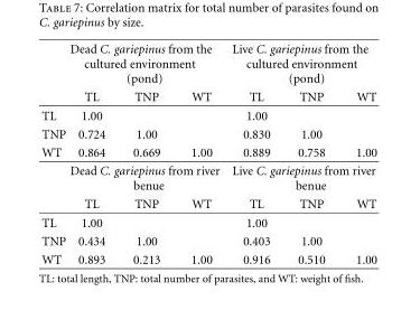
<table><thead><tr><td rowspan="2"></td><td colspan="3">Dead C. gariepinus from the cultured environment (pond)</td><td colspan="3">Live C. gariepinus from the cultured environment (pond)</td></tr><tr><td>TL</td><td>TNP</td><td>WT</td><td>TL</td><td>TNP</td><td>WT</td></tr></thead><tbody><tr><td>TL</td><td>1.00</td><td></td><td></td><td>1.00</td><td></td><td></td></tr><tr><td>TNP</td><td>0.724</td><td>1.00</td><td></td><td>0.830</td><td>1.00</td><td></td></tr><tr><td rowspan="3">WT</td><td>0.864</td><td>0.669</td><td>1.00</td><td>0.889</td><td>0.758</td><td>1.00</td></tr><tr><td colspan="3">Dead C. gariepinus from river benue</td><td colspan="3">Live C. gariepinus from river benue</td></tr><tr><td>TL</td><td>TNP</td><td>WT</td><td>TL</td><td>TNP</td><td>WT</td></tr><tr><td>TL</td><td>1.00</td><td></td><td></td><td>1.00</td><td></td><td></td></tr><tr><td>TNP</td><td>0.434</td><td>1.00</td><td></td><td>0.403</td><td>1.00</td><td></td></tr><tr><td>WT</td><td>0.893</td><td>0.213</td><td>1.00</td><td>0.916</td><td>0.510</td><td>1.00</td></tr></tbody></table>